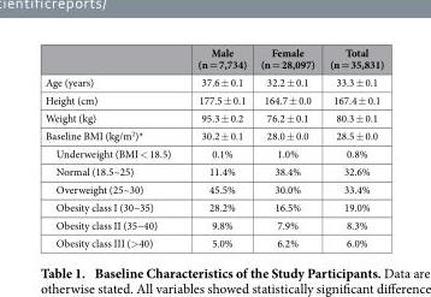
<table><thead><tr><td></td><td>Male (n = 7,734)</td><td>Female (n = 28,097)</td><td>Total (n = 35,831)</td></tr></thead><tbody><tr><td>Age (years)</td><td>37.6 ± 0.1</td><td>32.2 ± 0.1</td><td>33.3 ± 0.1</td></tr><tr><td>Height (cm)</td><td>177.5 ± 0.1</td><td>164.7 ± 0.0</td><td>167.4 ± 0.1</td></tr><tr><td>Weight (kg)</td><td>95.3 ± 0.2</td><td>76.2 ± 0.1</td><td>80.3 ± 0.1</td></tr><tr><td>Baseline BMI (kg/m<sup>2</sup>)*</td><td>30.2 ± 0.1</td><td>28.0 ± 0.0</td><td>28.5 ± 0.0</td></tr><tr><td>Underweight (BMI &lt; 18.5)</td><td>0.1%</td><td>1.0%</td><td>0.8%</td></tr><tr><td>Normal (18.5~25)</td><td>11.4%</td><td>38.4%</td><td>32.6%</td></tr><tr><td>Overweight (25~30)</td><td>45.5%</td><td>30.0%</td><td>33.4%</td></tr><tr><td>Obesity class I (30~35)</td><td>28.2%</td><td>16.5%</td><td>19.0%</td></tr><tr><td>Obesity class II (35~40)</td><td>9.8%</td><td>7.9%</td><td>8.3%</td></tr><tr><td>Obesity class III (&gt; 40)</td><td>5.0%</td><td>6.2%</td><td>6.0%</td></tr></tbody></table>